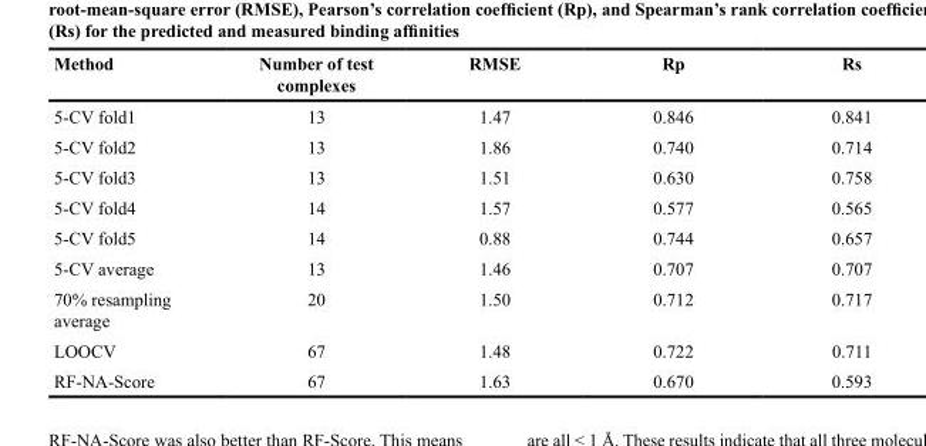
<table><thead><tr><td>Method</td><td>Number of test complexes</td><td>RMSE</td><td>Rp</td><td>Rs</td></tr></thead><tbody><tr><td>5-CV fold1</td><td>13</td><td>1.47</td><td>0.846</td><td>0.841</td></tr><tr><td>5-CV fold2</td><td>13</td><td>1.86</td><td>0.740</td><td>0.714</td></tr><tr><td>5-CV fold3</td><td>13</td><td>1.51</td><td>0.630</td><td>0.758</td></tr><tr><td>5-CV fold4</td><td>14</td><td>1.57</td><td>0.577</td><td>0.565</td></tr><tr><td>5-CV fold5</td><td>14</td><td>0.88</td><td>0.744</td><td>0.657</td></tr><tr><td>5-CV average</td><td>13</td><td>1.46</td><td>0.707</td><td>0.707</td></tr><tr><td>70% resampling average</td><td>20</td><td>1.50</td><td>0.712</td><td>0.717</td></tr><tr><td>LOOCV</td><td>67</td><td>1.48</td><td>0.722</td><td>0.711</td></tr><tr><td>RF-NA-Score</td><td>67</td><td>1.63</td><td>0.670</td><td>0.593</td></tr></tbody></table>